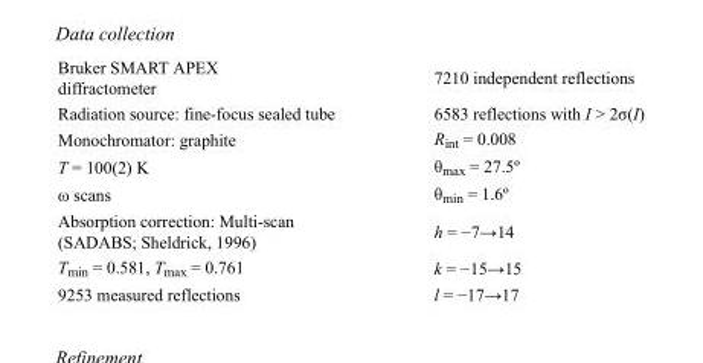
<table><tbody><tr><td>Bruker SMART APEX diffractometer</td><td>7210 independent reflections</td></tr><tr><td>Radiation source: fine-focus sealed tube</td><td>6583 reflections with I &gt; 2σ(I)</td></tr><tr><td>Monochromator: graphite</td><td>R<sub>int</sub> = 0.008</td></tr><tr><td>T = 100(2) K</td><td>θ<sub>max</sub> = 27.5º</td></tr><tr><td>ω scans</td><td>θ<sub>min</sub> = 1.6º</td></tr><tr><td>Absorption correction: Multi-scan (SADABS; Sheldrick, 1996)</td><td>h = −7→14</td></tr><tr><td>T<sub>min</sub> = 0.581, T<sub>max</sub> = 0.761</td><td>k = −15→15</td></tr><tr><td>9253 measured reflections</td><td>l = −17→17</td></tr></tbody></table>